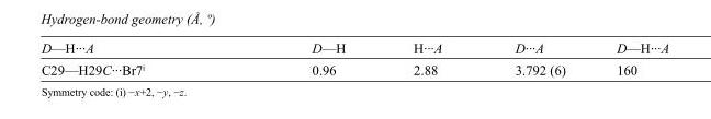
<table><tbody><tr><td>D—H···A</td><td>D—H</td><td>H···A</td><td>D···A</td><td>D—H···A</td></tr><tr><td>C29—H29C···Br7<sup>i</sup></td><td>0.96</td><td>2.88</td><td>3.792 (6)</td><td>160</td></tr></tbody></table>